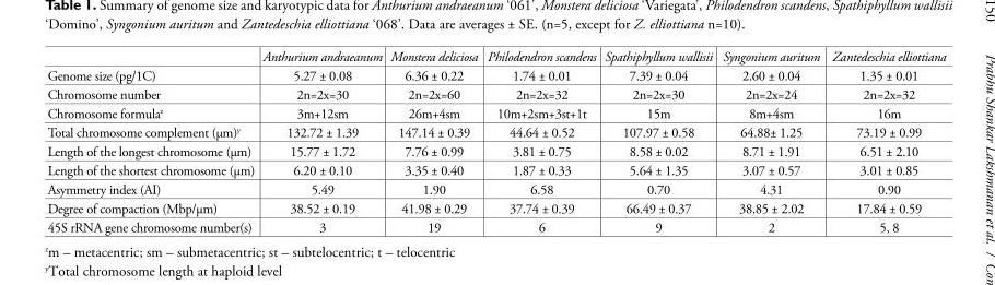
<table><thead><tr><td></td><td>Anthurium andraeanum</td><td>Monstera deliciosa</td><td>Philodendron scandens</td><td>Spathiphyllum wallisii</td><td>Syngonium auritum</td><td>Zantedeschia elliottiana</td></tr></thead><tbody><tr><td>Genome size (pg/1C)</td><td>5.27 ± 0.08</td><td>6.36 ± 0.22</td><td>1.74 ± 0.01</td><td>7.39 ± 0.04</td><td>2.60 ± 0.04</td><td>1.35 ± 0.01</td></tr><tr><td>Chromosome number</td><td>2n=2x=30</td><td>2n=2x=60</td><td>2n=2x=32</td><td>2n=2x=30</td><td>2n=2x=24</td><td>2n=2x=32</td></tr><tr><td>Chromosome formula<sup>z</sup></td><td>3m+12sm</td><td>26m+4sm</td><td>10m+2sm+3st+1t</td><td>15m</td><td>8m+4sm</td><td>16m</td></tr><tr><td>Total chromosome complement (µm)<sup>y</sup></td><td>132.72 ± 1.39</td><td>147.14 ± 0.39</td><td>44.64 ± 0.52</td><td>107.97 ± 0.58</td><td>64.88± 1.25</td><td>73.19 ± 0.99</td></tr><tr><td>Length of the longest chromosome (µm)</td><td>15.77 ± 1.72</td><td>7.76 ± 0.99</td><td>3.81 ± 0.75</td><td>8.58 ± 0.02</td><td>8.71 ± 1.91</td><td>6.51 ± 2.10</td></tr><tr><td>Length of the shortest chromosome (µm)</td><td>6.20 ± 0.10</td><td>3.35 ± 0.40</td><td>1.87 ± 0.33</td><td>5.64 ± 1.35</td><td>3.07 ± 0.57</td><td>3.01 ± 0.85</td></tr><tr><td>Asymmetry index (AI)</td><td>5.49</td><td>1.90</td><td>6.58</td><td>0.70</td><td>4.31</td><td>0.90</td></tr><tr><td>Degree of compaction (Mbp/µm)</td><td>38.52 ± 0.19</td><td>41.98 ± 0.29</td><td>37.74 ± 0.39</td><td>66.49 ± 0.37</td><td>38.85 ± 2.02</td><td>17.84 ± 0.59</td></tr><tr><td>45S rRNA gene chromosome number(s)</td><td>3</td><td>19</td><td>6</td><td>9</td><td>2</td><td>5, 8</td></tr></tbody></table>